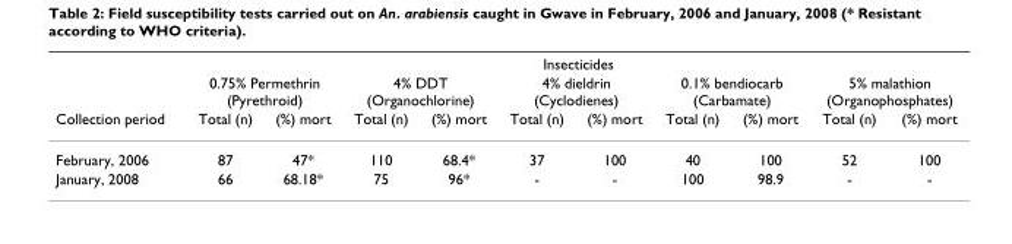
<table><thead><tr><td rowspan="3">Collection period</td><td colspan="10">Insecticides</td></tr><tr><td colspan="2">0.75% Permethrin (Pyrethroid)</td><td colspan="2">4% DDT (Organochlorine)</td><td colspan="2">4% dieldrin (Cyclodienes)</td><td colspan="2">0.1% bendiocarb (Carbamate)</td><td colspan="2">5% malathion (Organophosphates)</td></tr><tr><td>Total (n)</td><td>(%) mort</td><td>Total (n)</td><td>(%) mort</td><td>Total (n)</td><td>(%) mort</td><td>Total (n)</td><td>(%) mort</td><td>Total (n)</td><td>(%) mort</td></tr></thead><tbody><tr><td>February, 2006</td><td>87</td><td>47*</td><td>110</td><td>68.4*</td><td>37</td><td>100</td><td>40</td><td>100</td><td>52</td><td>100</td></tr><tr><td>January, 2008</td><td>66</td><td>68.18*</td><td>75</td><td>96*</td><td>-</td><td>-</td><td>100</td><td>98.9</td><td>-</td><td>-</td></tr></tbody></table>